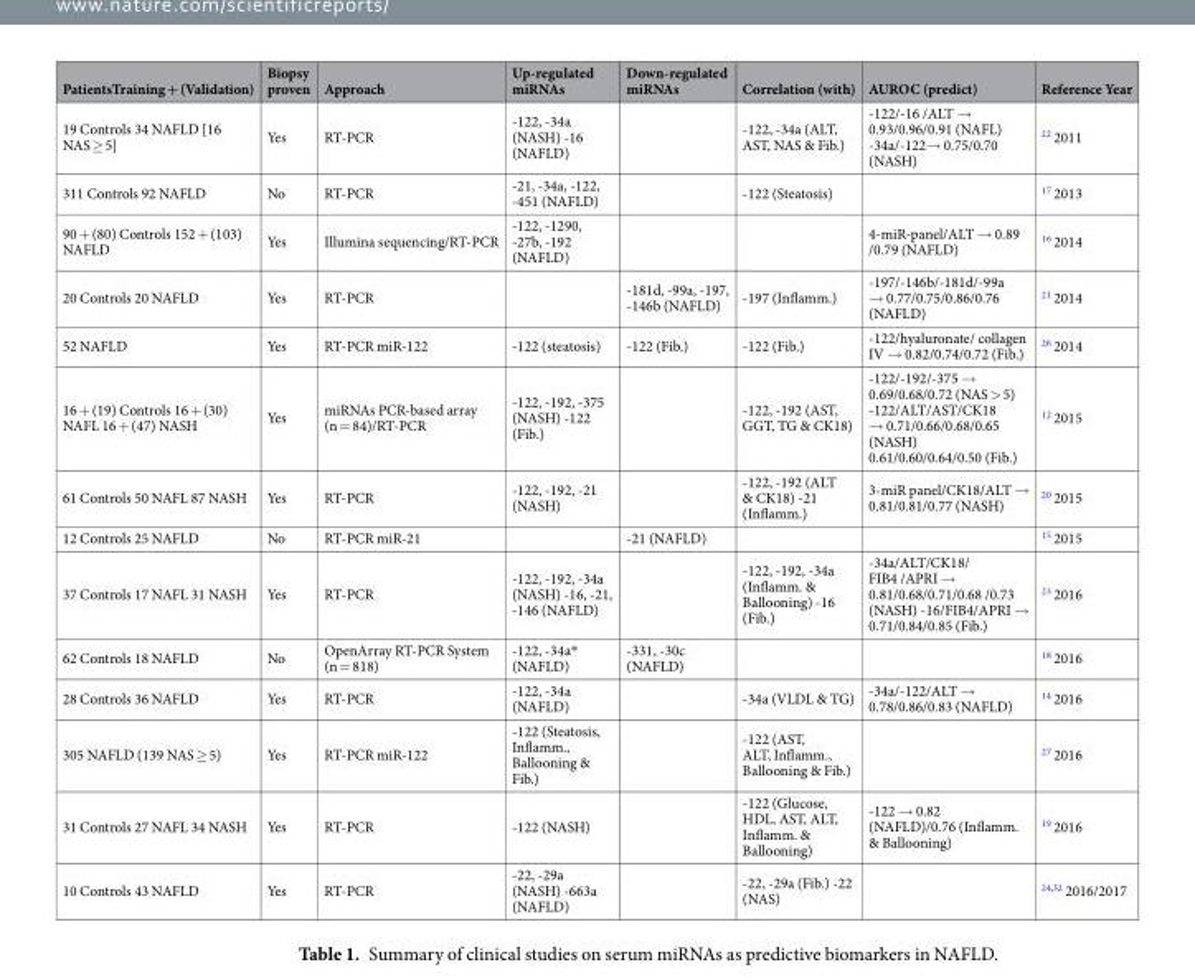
<table><thead><tr><td>PatientsTraining + (Validation)</td><td>Biopsy proven</td><td>Approach</td><td>Up-regulated miRNAs</td><td>Down-regulated miRNAs</td><td>Correlation (with)</td><td>AUROC (predict)</td><td>Reference Year</td></tr></thead><tbody><tr><td>19 Controls 34 NAFLD [16 NAS ≥ 5]</td><td>Yes</td><td>RT-PCR</td><td>-122, -34a (NASH) -16 (NAFLD)</td><td></td><td>-122, -34a (ALT, AST, NAS &amp; Fib.)</td><td>-122/-16 /ALT → 0.93/0.96/0.91 (NAFL) -34a/-122→ 0.75/0.70 (NASH)</td><td><sup>22</sup> 2011</td></tr><tr><td>311 Controls 92 NAFLD</td><td>No</td><td>RT-PCR</td><td>-21, -34a, -122, -451 (NAFLD)</td><td></td><td>-122 (Steatosis)</td><td></td><td><sup>17</sup> 2013</td></tr><tr><td>90 + (80) Controls 152 + (103) NAFLD</td><td>Yes</td><td>Illumina sequencing/RT-PCR</td><td>-122, -1290, -27b, -192 (NAFLD)</td><td></td><td></td><td>4-miR-panel/ALT → 0.89 /0.79 (NAFLD)</td><td><sup>16</sup> 2014</td></tr><tr><td>20 Controls 20 NAFLD</td><td>Yes</td><td>RT-PCR</td><td></td><td>-181d, -99a, -197, -146b (NAFLD)</td><td>-197 (Inflamm.)</td><td>-197/-146b/-181d/-99a → 0.77/0.75/0.86/0.76 (NAFLD)</td><td><sup>21</sup> 2014</td></tr><tr><td>52 NAFLD</td><td>Yes</td><td>RT-PCR miR-122</td><td>-122 (steatosis)</td><td>-122 (Fib.)</td><td>-122 (Fib.)</td><td>-122/hyaluronate/ collagen IV → 0.82/0.74/0.72 (Fib.)</td><td><sup>26</sup> 2014</td></tr><tr><td>16 + (19) Controls 16 + (30) NAFL 16 + (47) NASH</td><td>Yes</td><td>miRNAs PCR-based array (n = 84)/RT-PCR</td><td>-122, -192, -375 (NASH) -122 (Fib.)</td><td></td><td>-122, -192 (AST, GGT, TG &amp; CK18)</td><td>-122/-192/-375 → 0.69/0.68/0.72 (NAS &gt; 5) -122/ALT/AST/CK18 → 0.71/0.66/0.68/0.65 (NASH) 0.61/0.60/0.64/0.50 (Fib.)</td><td><sup>12</sup> 2015</td></tr><tr><td>61 Controls 50 NAFL 87 NASH</td><td>Yes</td><td>RT-PCR</td><td>-122, -192, -21 (NASH)</td><td></td><td>-122, -192 (ALT &amp; CK18) -21 (Inflamm.)</td><td>3-miR panel/CK18/ALT → 0.81/0.81/0.77 (NASH)</td><td><sup>20</sup> 2015</td></tr><tr><td>12 Controls 25 NAFLD</td><td>No</td><td>RT-PCR miR-21</td><td></td><td>-21 (NAFLD)</td><td></td><td></td><td><sup>15</sup> 2015</td></tr><tr><td>37 Controls 17 NAFL 31 NASH</td><td>Yes</td><td>RT-PCR</td><td>-122, -192, -34a (NASH) -16, -21, -146 (NAFLD)</td><td></td><td>-122, -192, -34a (Inflamm. &amp; Ballooning) -16 (Fib.)</td><td>-34a/ALT/CK18/ FIB4 /APRI → 0.81/0.68/0.71/0.68 /0.73 (NASH) -16/FIB4/APRI → 0.71/0.84/0.85 (Fib.)</td><td><sup>23</sup> 2016</td></tr><tr><td>62 Controls 18 NAFLD</td><td>No</td><td>OpenArray RT-PCR System (n = 818)</td><td>-122, -34a* (NAFLD)</td><td>-331, -30c (NAFLD)</td><td></td><td></td><td><sup>18</sup> 2016</td></tr><tr><td>28 Controls 36 NAFLD</td><td>Yes</td><td>RT-PCR</td><td>-122, -34a (NAFLD)</td><td></td><td>-34a (VLDL &amp; TG)</td><td>-34a/-122/ALT → 0.78/0.86/0.83 (NAFLD)</td><td><sup>14</sup> 2016</td></tr><tr><td>305 NAFLD (139 NAS ≥ 5)</td><td>Yes</td><td>RT-PCR miR-122</td><td>-122 (Steatosis, Inflamm., Ballooning &amp; Fib.)</td><td></td><td>-122 (AST, ALT, Inflamm., Ballooning &amp; Fib.)</td><td></td><td><sup>27</sup> 2016</td></tr><tr><td>31 Controls 27 NAFL 34 NASH</td><td>Yes</td><td>RT-PCR</td><td>-122 (NASH)</td><td></td><td>-122 (Glucose, HDL, AST, ALT, Inflamm. &amp; Ballooning)</td><td>-122 → 0.82 (NAFLD)/0.76 (Inflamm. &amp; Ballooning)</td><td><sup>19</sup> 2016</td></tr><tr><td>10 Controls 43 NAFLD</td><td>Yes</td><td>RT-PCR</td><td>-22, -29a (NASH) -663a (NAFLD)</td><td></td><td>-22, -29a (Fib.) -22 (NAS)</td><td></td><td><sup>24,32</sup> 2016/2017</td></tr></tbody></table>